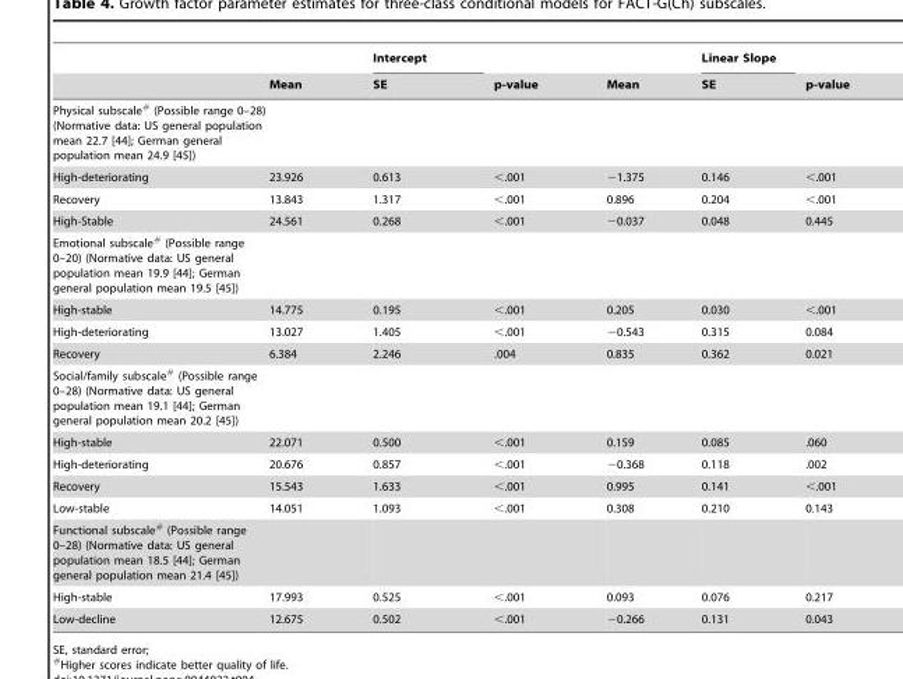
<table><thead><tr><td rowspan="2"></td><td rowspan="2">Mean</td><td rowspan="2">Intercept SE</td><td rowspan="2">p-value</td><td rowspan="2">Mean</td><td rowspan="2">Linear Slope SE</td><td rowspan="2">p-value</td></tr><tr></tr></thead><tbody><tr><td colspan="7">Physical subscale# (Possible range 0–28) (Normative data: US general population mean 22.7 [44]; German general population mean 24.9 [45])</td></tr><tr><td>High-deteriorating</td><td>23.926</td><td>0.613</td><td>&lt;.001</td><td>−1.375</td><td>0.146</td><td>&lt;.001</td></tr><tr><td>Recovery</td><td>13.843</td><td>1.317</td><td>&lt;.001</td><td>0.896</td><td>0.204</td><td>&lt;.001</td></tr><tr><td>High-Stable</td><td>24.561</td><td>0.268</td><td>&lt;.001</td><td>−0.037</td><td>0.048</td><td>0.445</td></tr><tr><td colspan="7">Emotional subscale# (Possible range 0–20) (Normative data: US general population mean 19.9 [44]; German general population mean 19.5 [45])</td></tr><tr><td>High-stable</td><td>14.775</td><td>0.195</td><td>&lt;.001</td><td>0.205</td><td>0.030</td><td>&lt;.001</td></tr><tr><td>High-deteriorating</td><td>13.027</td><td>1.405</td><td>&lt;.001</td><td>−0.543</td><td>0.315</td><td>0.084</td></tr><tr><td>Recovery</td><td>6.384</td><td>2.246</td><td>.004</td><td>0.835</td><td>0.362</td><td>0.021</td></tr><tr><td colspan="7">Social/family subscale# (Possible range 0–28) (Normative data: US general population mean 19.1 [44]; German general population mean 20.2 [45])</td></tr><tr><td>High-stable</td><td>22.071</td><td>0.500</td><td>&lt;.001</td><td>0.159</td><td>0.085</td><td>.060</td></tr><tr><td>High-deteriorating</td><td>20.676</td><td>0.857</td><td>&lt;.001</td><td>−0.368</td><td>0.118</td><td>.002</td></tr><tr><td>Recovery</td><td>15.543</td><td>1.633</td><td>&lt;.001</td><td>0.995</td><td>0.141</td><td>&lt;.001</td></tr><tr><td>Low-stable</td><td>14.051</td><td>1.093</td><td>&lt;.001</td><td>0.308</td><td>0.210</td><td>0.143</td></tr><tr><td colspan="7">Functional subscale# (Possible range 0–28) (Normative data: US general population mean 18.5 [44]; German general population mean 21.4 [45])</td></tr><tr><td>High-stable</td><td>17.993</td><td>0.525</td><td>&lt;.001</td><td>0.093</td><td>0.076</td><td>0.217</td></tr><tr><td>Low-decline</td><td>12.675</td><td>0.502</td><td>&lt;.001</td><td>−0.266</td><td>0.131</td><td>0.043</td></tr></tbody></table>